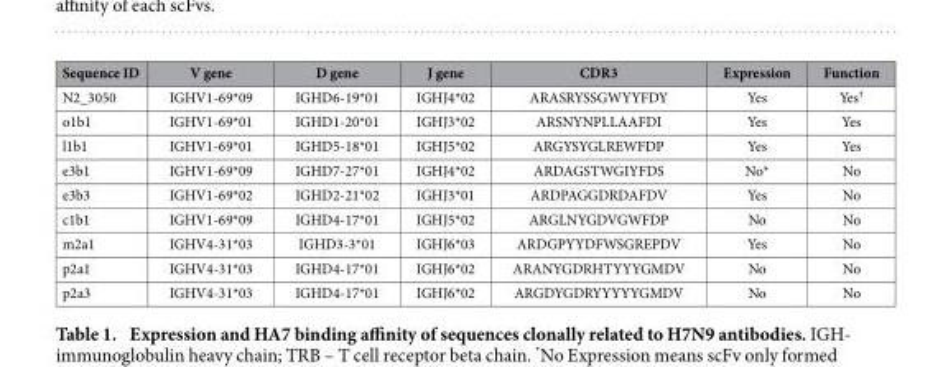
<table><thead><tr><td>Sequence ID</td><td>V gene</td><td>D gene</td><td>J gene</td><td>CDR3</td><td>Expression</td><td>Function</td></tr></thead><tbody><tr><td>N2_3050</td><td>IGHV1-69*09</td><td>IGHD6-19*01</td><td>IGHJ4*02</td><td>ARASRYSSGWYYFDY</td><td>Yes</td><td>Yes†</td></tr><tr><td>o1b1</td><td>IGHV1-69*01</td><td>IGHD1-20*01</td><td>IGHJ3*02</td><td>ARSNYNPLLAAFDI</td><td>Yes</td><td>Yes</td></tr><tr><td>l1b1</td><td>IGHV1-69*01</td><td>IGHD5-18*01</td><td>IGHJ5*02</td><td>ARGYSYGLREWFDP</td><td>Yes</td><td>Yes</td></tr><tr><td>e3b1</td><td>IGHV1-69*09</td><td>IGHD7-27*01</td><td>IGHJ4*02</td><td>ARDAGSTWGIYFDS</td><td>No*</td><td>No</td></tr><tr><td>e3b3</td><td>IGHV1-69*02</td><td>IGHD2-21*02</td><td>IGHJ3*01</td><td>ARDPAGGDRDAFDV</td><td>Yes</td><td>No</td></tr><tr><td>c1b1</td><td>IGHV1-69*09</td><td>IGHD4-17*01</td><td>IGHJ5*02</td><td>ARGLNYGDVGWFDP</td><td>No</td><td>No</td></tr><tr><td>m2a1</td><td>IGHV4-31*03</td><td>IGHD3-3*01</td><td>IGHJ6*03</td><td>ARDGPYYDFWSGREPDV</td><td>Yes</td><td>No</td></tr><tr><td>p2a1</td><td>IGHV4-31*03</td><td>IGHD4-17*01</td><td>IGHJ6*02</td><td>ARANYGDRHTYYYGMDV</td><td>No</td><td>No</td></tr><tr><td>p2a3</td><td>IGHV4-31*03</td><td>IGHD4-17*01</td><td>IGHJ6*02</td><td>ARGDYGDRYYYYYGMDV</td><td>No</td><td>No</td></tr></tbody></table>